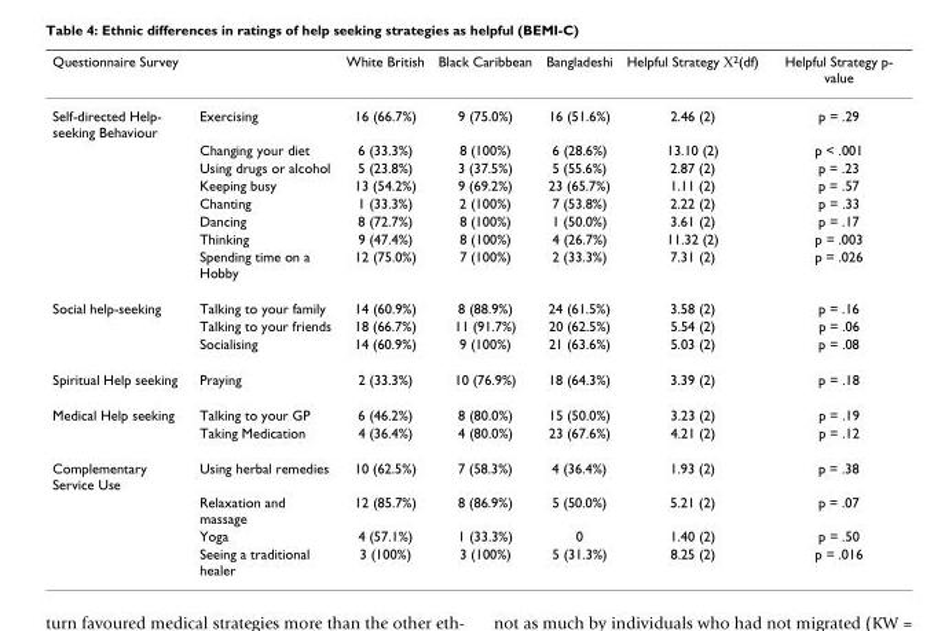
<table><thead><tr><td>Questionnaire Survey</td><td></td><td>White British</td><td>Black Caribbean</td><td>Bangladeshi</td><td>Helpful Strategy Χ<sup>2</sup>(df)</td><td>Helpful Strategy p- value</td></tr></thead><tbody><tr><td rowspan="8">Self-directed Help- seeking Behaviour</td><td>Exercising</td><td>16 (66.7%)</td><td>9 (75.0%)</td><td>16 (51.6%)</td><td>2.46 (2)</td><td>p = .29</td></tr><tr><td>Changing your diet</td><td>6 (33.3%)</td><td>8 (100%)</td><td>6 (28.6%)</td><td>13.10 (2)</td><td>p &lt; .001</td></tr><tr><td>Using drugs or alcohol</td><td>5 (23.8%)</td><td>3 (37.5%)</td><td>5 (55.6%)</td><td>2.87 (2)</td><td>p = .23</td></tr><tr><td>Keeping busy</td><td>13 (54.2%)</td><td>9 (69.2%)</td><td>23 (65.7%)</td><td>1.11 (2)</td><td>p = .57</td></tr><tr><td>Chanting</td><td>1 (33.3%)</td><td>2 (100%)</td><td>7 (53.8%)</td><td>2.22 (2)</td><td>p = .33</td></tr><tr><td>Dancing</td><td>8 (72.7%)</td><td>8 (100%)</td><td>1 (50.0%)</td><td>3.61 (2)</td><td>p = .17</td></tr><tr><td>Thinking</td><td>9 (47.4%)</td><td>8 (100%)</td><td>4 (26.7%)</td><td>11.32 (2)</td><td>p = .003</td></tr><tr><td>Spending time on a Hobby</td><td>12 (75.0%)</td><td>7 (100%)</td><td>2 (33.3%)</td><td>7.31 (2)</td><td>p = .026</td></tr><tr><td rowspan="3">Social help-seeking</td><td>Talking to your family</td><td>14 (60.9%)</td><td>8 (88.9%)</td><td>24 (61.5%)</td><td>3.58 (2)</td><td>p = .16</td></tr><tr><td>Talking to your friends</td><td>18 (66.7%)</td><td>11 (91.7%)</td><td>20 (62.5%)</td><td>5.54 (2)</td><td>p = .06</td></tr><tr><td>Socialising</td><td>14 (60.9%)</td><td>9 (100%)</td><td>21 (63.6%)</td><td>5.03 (2)</td><td>p = .08</td></tr><tr><td>Spiritual Help seeking</td><td>Praying</td><td>2 (33.3%)</td><td>10 (76.9%)</td><td>18 (64.3%)</td><td>3.39 (2)</td><td>p = .18</td></tr><tr><td rowspan="2">Medical Help seeking</td><td>Talking to your GP</td><td>6 (46.2%)</td><td>8 (80.0%)</td><td>15 (50.0%)</td><td>3.23 (2)</td><td>p = .19</td></tr><tr><td>Taking Medication</td><td>4 (36.4%)</td><td>4 (80.0%)</td><td>23 (67.6%)</td><td>4.21 (2)</td><td>p = .12</td></tr><tr><td rowspan="4">Complementary Service Use</td><td>Using herbal remedies</td><td>10 (62.5%)</td><td>7 (58.3%)</td><td>4 (36.4%)</td><td>1.93 (2)</td><td>p = .38</td></tr><tr><td>Relaxation and massage</td><td>12 (85.7%)</td><td>8 (86.9%)</td><td>5 (50.0%)</td><td>5.21 (2)</td><td>p = .07</td></tr><tr><td>Yoga</td><td>4 (57.1%)</td><td>1 (33.3%)</td><td>0</td><td>1.40 (2)</td><td>p = .50</td></tr><tr><td>Seeing a traditional healer</td><td>3 (100%)</td><td>3 (100%)</td><td>5 (31.3%)</td><td>8.25 (2)</td><td>p = .016</td></tr></tbody></table>